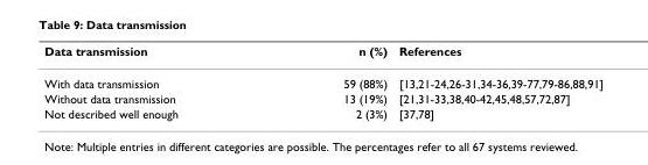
<table><thead><tr><td>Data transmission</td><td>n (%)</td><td>References</td></tr></thead><tbody><tr><td>With data transmission</td><td>59 (88%)</td><td>[13,21-24,26-31,34-36,39-77,79-86,88,91]</td></tr><tr><td>Without data transmission</td><td>13 (19%)</td><td>[21,31-33,38,40-42,45,48,57,72,87]</td></tr><tr><td>Not described well enough</td><td>2 (3%)</td><td>[37,78]</td></tr></tbody></table>